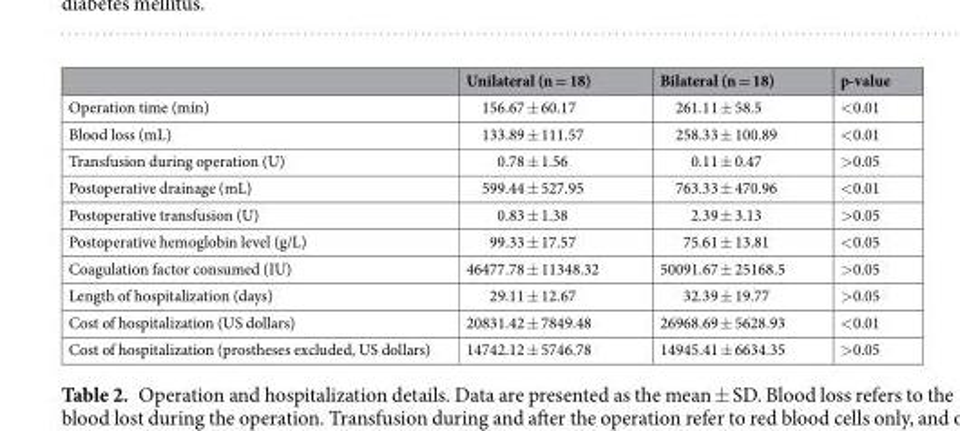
<table><thead><tr><td></td><td>Unilateral (n = 18)</td><td>Bilateral (n = 18)</td><td>p-value</td></tr></thead><tbody><tr><td>Operation time (min)</td><td>156.67 ± 60.17</td><td>261.11 ± 58.5</td><td>&lt;0.01</td></tr><tr><td>Blood loss (mL)</td><td>133.89 ± 111.57</td><td>258.33 ± 100.89</td><td>&lt;0.01</td></tr><tr><td>Transfusion during operation (U)</td><td>0.78 ± 1.56</td><td>0.11 ± 0.47</td><td>&gt;0.05</td></tr><tr><td>Postoperative drainage (mL)</td><td>599.44 ± 527.95</td><td>763.33 ± 470.96</td><td>&lt;0.01</td></tr><tr><td>Postoperative transfusion (U)</td><td>0.83 ± 1.38</td><td>2.39 ± 3.13</td><td>&gt;0.05</td></tr><tr><td>Postoperative hemoglobin level (g/L)</td><td>99.33 ± 17.57</td><td>75.61 ± 13.81</td><td>&lt;0.05</td></tr><tr><td>Coagulation factor consumed (IU)</td><td>46477.78 ± 11348.32</td><td>50091.67 ± 25168.5</td><td>&gt;0.05</td></tr><tr><td>Length of hospitalization (days)</td><td>29.11 ± 12.67</td><td>32.39 ± 19.77</td><td>&gt;0.05</td></tr><tr><td>Cost of hospitalization (US dollars)</td><td>20831.42 ± 7849.48</td><td>26968.69 ± 5628.93</td><td>&lt;0.01</td></tr><tr><td>Cost of hospitalization (prostheses excluded, US dollars)</td><td>14742.12 ± 5746.78</td><td>14945.41 ± 6634.35</td><td>&gt;0.05</td></tr></tbody></table>